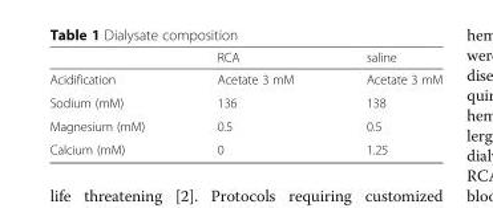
<table><thead><tr><td></td><td>RCA</td><td>saline</td></tr></thead><tbody><tr><td>Acidification</td><td>Acetate 3 mM</td><td>Acetate 3 mM</td></tr><tr><td>Sodium (mM)</td><td>136</td><td>138</td></tr><tr><td>Magnesium (mM)</td><td>0.5</td><td>0.5</td></tr><tr><td>Calcium (mM)</td><td>0</td><td>1.25</td></tr></tbody></table>